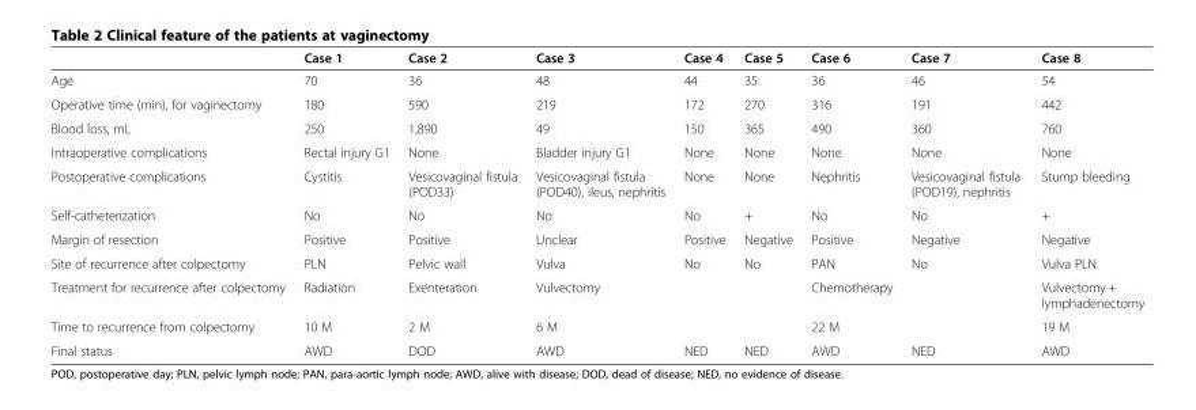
<table><thead><tr><td></td><td>Case 1</td><td>Case 2</td><td>Case 3</td><td>Case 4</td><td>Case 5</td><td>Case 6</td><td>Case 7</td><td>Case 8</td></tr></thead><tbody><tr><td>Age</td><td>70</td><td>36</td><td>48</td><td>44</td><td>35</td><td>36</td><td>46</td><td>54</td></tr><tr><td>Operative time (min), for vaginectomy</td><td>180</td><td>590</td><td>219</td><td>172</td><td>270</td><td>316</td><td>191</td><td>442</td></tr><tr><td>Blood loss, mL</td><td>250</td><td>1,890</td><td>49</td><td>150</td><td>365</td><td>490</td><td>360</td><td>760</td></tr><tr><td>Intraoperative complications</td><td>Rectal injury G1</td><td>None</td><td>Bladder injury G1</td><td>None</td><td>None</td><td>None</td><td>None</td><td>None</td></tr><tr><td>Postoperative complications</td><td>Cystitis</td><td>Vesicovaginal fistula (POD33)</td><td>Vesicovaginal fistula (POD40), ileus, nephritis</td><td>None</td><td>None</td><td>Nephritis</td><td>Vesicovaginal fistula (POD19), nephritis</td><td>Stump bleeding</td></tr><tr><td>Self-catheterization</td><td>No</td><td>No</td><td>No</td><td>No</td><td>+</td><td>No</td><td>No</td><td>+</td></tr><tr><td>Margin of resection</td><td>Positive</td><td>Positive</td><td>Unclear</td><td>Positive</td><td>Negative</td><td>Positive</td><td>Negative</td><td>Negative</td></tr><tr><td>Site of recurrence after colpectomy</td><td>PLN</td><td>Pelvic wall</td><td>Vulva</td><td>No</td><td>No</td><td>PAN</td><td>No</td><td>Vulva PLN</td></tr><tr><td>Treatment for recurrence after colpectomy</td><td>Radiation</td><td>Exenteration</td><td>Vulvectomy</td><td></td><td></td><td>Chemotherapy</td><td></td><td>Vulvectomy + lymphadenectomy</td></tr><tr><td>Time to recurrence from colpectomy</td><td>10 M</td><td>2 M</td><td>6 M</td><td></td><td></td><td>22 M</td><td></td><td>19 M</td></tr><tr><td>Final status</td><td>AWD</td><td>DOD</td><td>AWD</td><td>NED</td><td>NED</td><td>AWD</td><td>NED</td><td>AWD</td></tr></tbody></table>